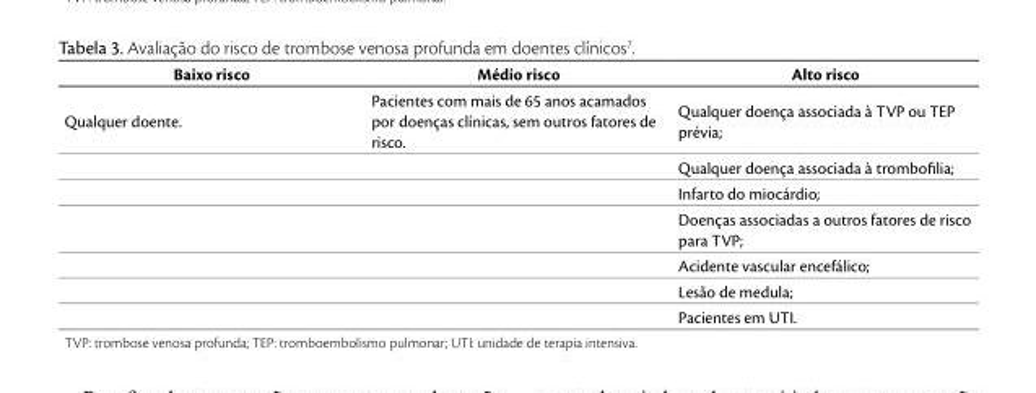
<table><thead><tr><td>Baixo risco</td><td>Médio risco</td><td>Alto risco</td></tr></thead><tbody><tr><td rowspan="7">Qualquer doente.</td><td>Pacientes com mais de 65 anos acamados por doenças clínicas, sem outros fatores de risco.</td><td>Qualquer doença associada à TVP ou TEP prévia;</td></tr><tr><td></td><td>Qualquer doença associada à trombofilia;</td></tr><tr><td></td><td>Infarto do miocárdio;</td></tr><tr><td></td><td>Doenças associadas a outros fatores de risco para TVP;</td></tr><tr><td></td><td>Acidente vascular encefálico;</td></tr><tr><td></td><td>Lesão de medula;</td></tr><tr><td></td><td>Pacientes em UTI.</td></tr></tbody></table>